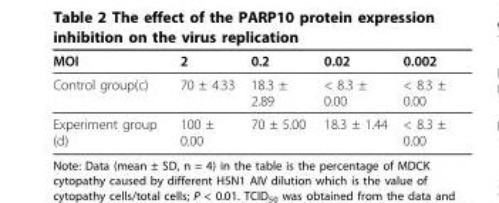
<table><thead><tr><td>MOI</td><td>2</td><td>0.2</td><td>0.02</td><td>0.002</td></tr></thead><tbody><tr><td>Control group(c)</td><td>70 ± 4.33</td><td>18.3 ± 2.89</td><td>&lt; 8.3 ± 0.00</td><td>&lt; 8.3 ± 0.00</td></tr><tr><td>Experiment group (d)</td><td>100 ± 0.00</td><td>70 ± 5.00</td><td>18.3 ± 1.44</td><td>&lt; 8.3 ± 0.00</td></tr></tbody></table>